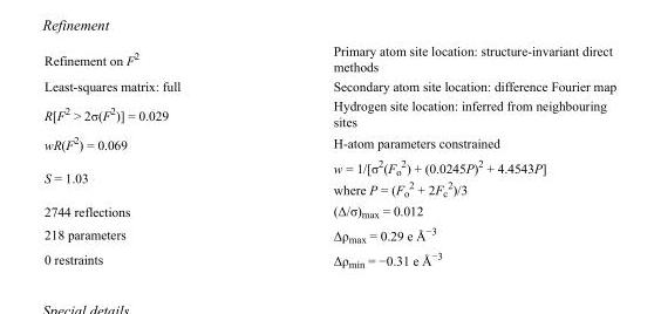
<table><tbody><tr><td>Refinement on F<sup>2</sup></td><td>Primary atom site location: structure-invariant direct methods</td></tr><tr><td>Least-squares matrix: full</td><td>Secondary atom site location: difference Fourier map</td></tr><tr><td>R[F<sup>2</sup> &gt; 2σ(F<sup>2</sup>)] = 0.029</td><td>Hydrogen site location: inferred from neighbouring sites</td></tr><tr><td>wR(F<sup>2</sup>) = 0.069</td><td>H-atom parameters constrained</td></tr><tr><td>S = 1.03</td><td>w = 1/[σ<sup>2</sup>(F<sub>o</sub> <sup>2</sup>) + (0.0245P)<sup>2</sup> + 4.4543P] where P = (F<sub>o</sub> <sup>2</sup> + 2F<sub>c</sub> <sup>2</sup>)/3</td></tr><tr><td>2744 reflections</td><td>(Δ/σ)<sub>max</sub> = 0.012</td></tr><tr><td>218 parameters</td><td>Δρ<sub>max</sub> = 0.29 e Å<sup>−3</sup></td></tr><tr><td>0 restraints</td><td>Δρ<sub>min</sub> = −0.31 e Å<sup>−3</sup></td></tr></tbody></table>